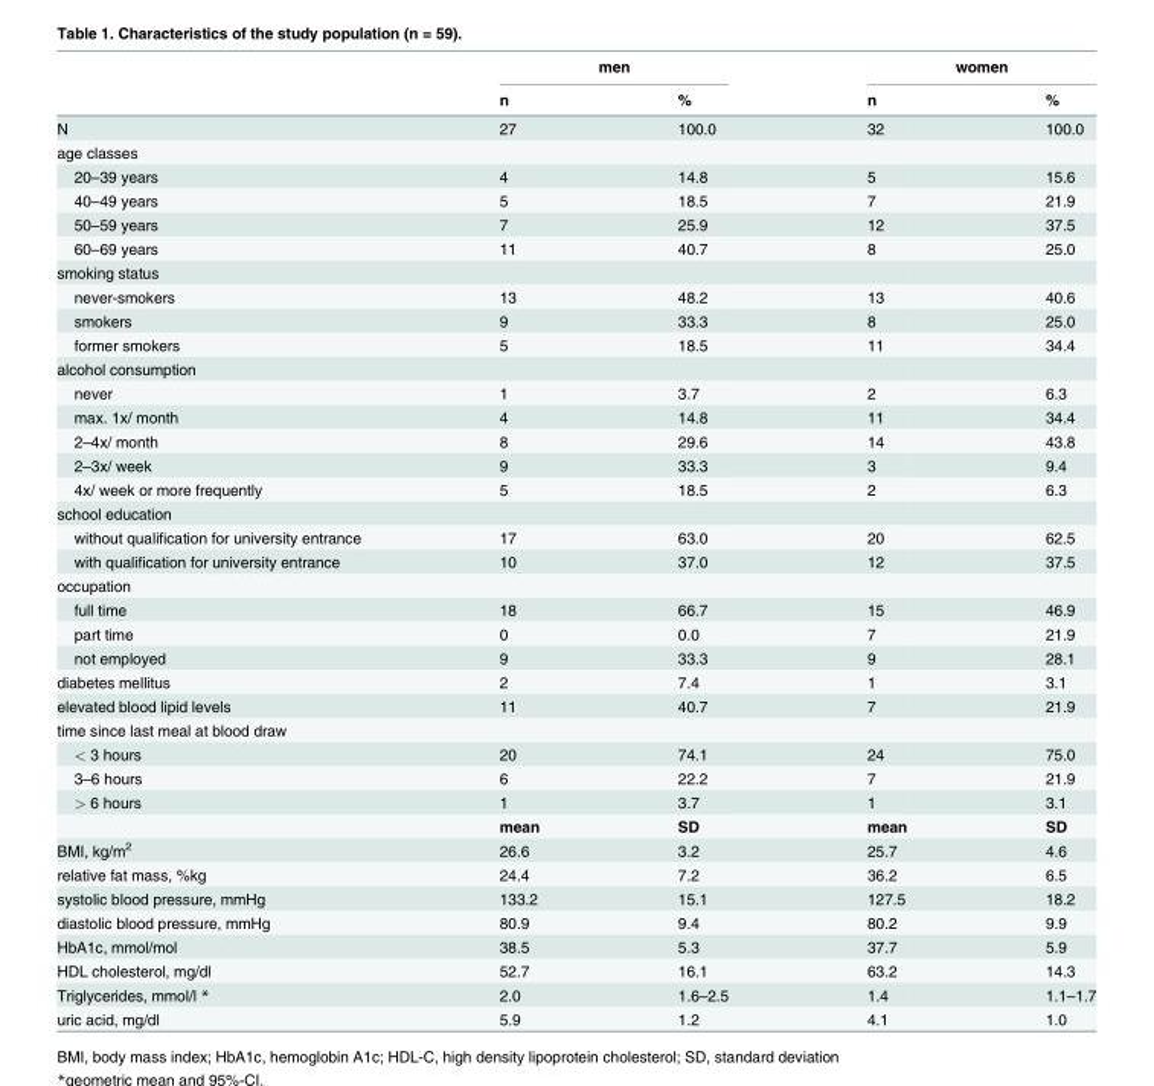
<table><thead><tr><td rowspan="2"></td><td colspan="2">men</td><td colspan="2">women</td></tr><tr><td>n</td><td>%</td><td>n</td><td>%</td></tr></thead><tbody><tr><td>N</td><td>27</td><td>100.0</td><td>32</td><td>100.0</td></tr><tr><td colspan="5">age classes</td></tr><tr><td>20–39 years</td><td>4</td><td>14.8</td><td>5</td><td>15.6</td></tr><tr><td>40–49 years</td><td>5</td><td>18.5</td><td>7</td><td>21.9</td></tr><tr><td>50–59 years</td><td>7</td><td>25.9</td><td>12</td><td>37.5</td></tr><tr><td>60–69 years</td><td>11</td><td>40.7</td><td>8</td><td>25.0</td></tr><tr><td colspan="5">smoking status</td></tr><tr><td>never-smokers</td><td>13</td><td>48.2</td><td>13</td><td>40.6</td></tr><tr><td>smokers</td><td>9</td><td>33.3</td><td>8</td><td>25.0</td></tr><tr><td>former smokers</td><td>5</td><td>18.5</td><td>11</td><td>34.4</td></tr><tr><td colspan="5">alcohol consumption</td></tr><tr><td>never</td><td>1</td><td>3.7</td><td>2</td><td>6.3</td></tr><tr><td>max. 1x/ month</td><td>4</td><td>14.8</td><td>11</td><td>34.4</td></tr><tr><td>2–4x/ month</td><td>8</td><td>29.6</td><td>14</td><td>43.8</td></tr><tr><td>2–3x/ week</td><td>9</td><td>33.3</td><td>3</td><td>9.4</td></tr><tr><td>4x/ week or more frequently</td><td>5</td><td>18.5</td><td>2</td><td>6.3</td></tr><tr><td colspan="5">school education</td></tr><tr><td>without qualification for university entrance</td><td>17</td><td>63.0</td><td>20</td><td>62.5</td></tr><tr><td>with qualification for university entrance</td><td>10</td><td>37.0</td><td>12</td><td>37.5</td></tr><tr><td colspan="5">occupation</td></tr><tr><td>full time</td><td>18</td><td>66.7</td><td>15</td><td>46.9</td></tr><tr><td>part time</td><td>0</td><td>0.0</td><td>7</td><td>21.9</td></tr><tr><td>not employed</td><td>9</td><td>33.3</td><td>9</td><td>28.1</td></tr><tr><td>diabetes mellitus</td><td>2</td><td>7.4</td><td>1</td><td>3.1</td></tr><tr><td>elevated blood lipid levels</td><td>11</td><td>40.7</td><td>7</td><td>21.9</td></tr><tr><td colspan="5">time since last meal at blood draw</td></tr><tr><td>&lt; 3 hours</td><td>20</td><td>74.1</td><td>24</td><td>75.0</td></tr><tr><td>3–6 hours</td><td>6</td><td>22.2</td><td>7</td><td>21.9</td></tr><tr><td rowspan="2">&gt; 6 hours</td><td>1</td><td>3.7</td><td>1</td><td>3.1</td></tr><tr><td>mean</td><td>SD</td><td>mean</td><td>SD</td></tr><tr><td>BMI, kg/m<sup>2</sup></td><td>26.6</td><td>3.2</td><td>25.7</td><td>4.6</td></tr><tr><td>relative fat mass, %kg</td><td>24.4</td><td>7.2</td><td>36.2</td><td>6.5</td></tr><tr><td>systolic blood pressure, mmHg</td><td>133.2</td><td>15.1</td><td>127.5</td><td>18.2</td></tr><tr><td>diastolic blood pressure, mmHg</td><td>80.9</td><td>9.4</td><td>80.2</td><td>9.9</td></tr><tr><td>HbA1c, mmol/mol</td><td>38.5</td><td>5.3</td><td>37.7</td><td>5.9</td></tr><tr><td>HDL cholesterol, mg/dl</td><td>52.7</td><td>16.1</td><td>63.2</td><td>14.3</td></tr><tr><td>Triglycerides, mmol/l *</td><td>2.0</td><td>1.6–2.5</td><td>1.4</td><td>1.1–1.7</td></tr><tr><td>uric acid, mg/dl</td><td>5.9</td><td>1.2</td><td>4.1</td><td>1.0</td></tr></tbody></table>